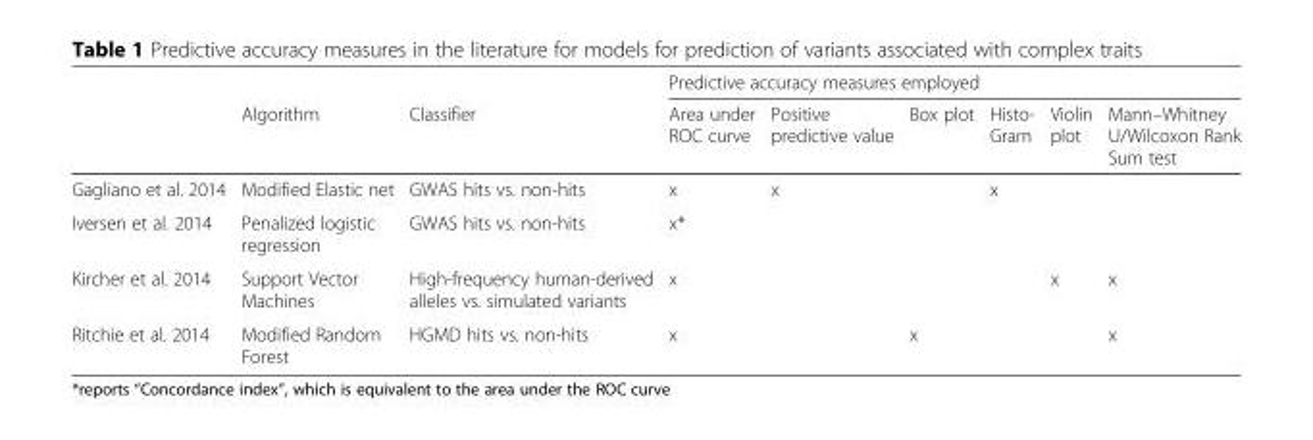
<table><thead><tr><td rowspan="2"></td><td rowspan="2">Algorithm</td><td rowspan="2">Classifier</td><td colspan="6">Predictive accuracy measures employed</td></tr><tr><td>Area under ROC curve</td><td>Positive predictive value</td><td>Box plot</td><td>Histo- Gram</td><td>Violin plot</td><td>Mann–Whitney U/Wilcoxon Rank Sum test</td></tr></thead><tbody><tr><td>Gagliano et al. 2014</td><td>Modified Elastic net</td><td>GWAS hits vs. non-hits</td><td>x</td><td>x</td><td></td><td>x</td><td></td><td></td></tr><tr><td>Iversen et al. 2014</td><td>Penalized logistic regression</td><td>GWAS hits vs. non-hits</td><td>x*</td><td></td><td></td><td></td><td></td><td></td></tr><tr><td>Kircher et al. 2014</td><td>Support Vector Machines</td><td>High-frequency human-derived alleles vs. simulated variants</td><td>x</td><td></td><td></td><td></td><td>x</td><td>x</td></tr><tr><td>Ritchie et al. 2014</td><td>Modified Random Forest</td><td>HGMD hits vs. non-hits</td><td>x</td><td></td><td>x</td><td></td><td></td><td>x</td></tr></tbody></table>